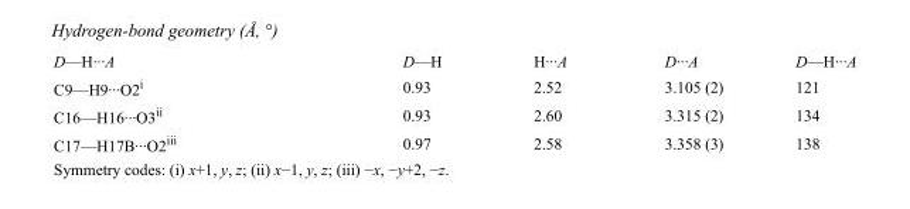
<table><tbody><tr><td>D—H···A</td><td>D—H</td><td>H···A</td><td>D···A</td><td>D—H···A</td></tr><tr><td>C9—H9···O2<sup>i</sup></td><td>0.93</td><td>2.52</td><td>3.105 (2)</td><td>121</td></tr><tr><td>C16—H16···O3<sup>ii</sup></td><td>0.93</td><td>2.60</td><td>3.315 (2)</td><td>134</td></tr><tr><td>C17—H17B···O2<sup>iii</sup></td><td>0.97</td><td>2.58</td><td>3.358 (3)</td><td>138</td></tr></tbody></table>